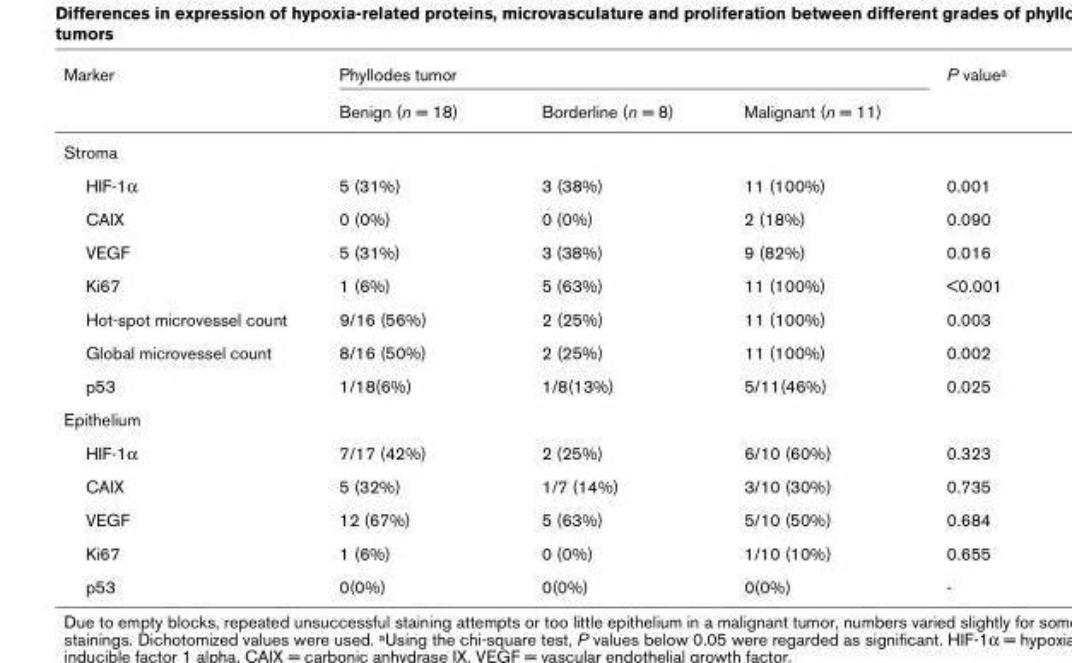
<table><thead><tr><td rowspan="2">Marker</td><td colspan="3">Phyllodes tumor</td><td rowspan="2">P valuea</td></tr><tr><td>Benign (n = 18)</td><td>Borderline (n = 8)</td><td>Malignant (n = 11)</td></tr></thead><tbody><tr><td colspan="5">Stroma</td></tr><tr><td>HIF-1α</td><td>5 (31%)</td><td>3 (38%)</td><td>11 (100%)</td><td>0.001</td></tr><tr><td>CAIX</td><td>0 (0%)</td><td>0 (0%)</td><td>2 (18%)</td><td>0.090</td></tr><tr><td>VEGF</td><td>5 (31%)</td><td>3 (38%)</td><td>9 (82%)</td><td>0.016</td></tr><tr><td>Ki67</td><td>1 (6%)</td><td>5 (63%)</td><td>11 (100%)</td><td>&lt;0.001</td></tr><tr><td>Hot-spot microvessel count</td><td>9/16 (56%)</td><td>2 (25%)</td><td>11 (100%)</td><td>0.003</td></tr><tr><td>Global microvessel count</td><td>8/16 (50%)</td><td>2 (25%)</td><td>11 (100%)</td><td>0.002</td></tr><tr><td>p53</td><td>1/18(6%)</td><td>1/8(13%)</td><td>5/11(46%)</td><td>0.025</td></tr><tr><td colspan="5">Epithelium</td></tr><tr><td>HIF-1α</td><td>7/17 (42%)</td><td>2 (25%)</td><td>6/10 (60%)</td><td>0.323</td></tr><tr><td>CAIX</td><td>5 (32%)</td><td>1/7 (14%)</td><td>3/10 (30%)</td><td>0.735</td></tr><tr><td>VEGF</td><td>12 (67%)</td><td>5 (63%)</td><td>5/10 (50%)</td><td>0.684</td></tr><tr><td>Ki67</td><td>1 (6%)</td><td>0 (0%)</td><td>1/10 (10%)</td><td>0.655</td></tr><tr><td>p53</td><td>0(0%)</td><td>0(0%)</td><td>0(0%)</td><td>-</td></tr></tbody></table>